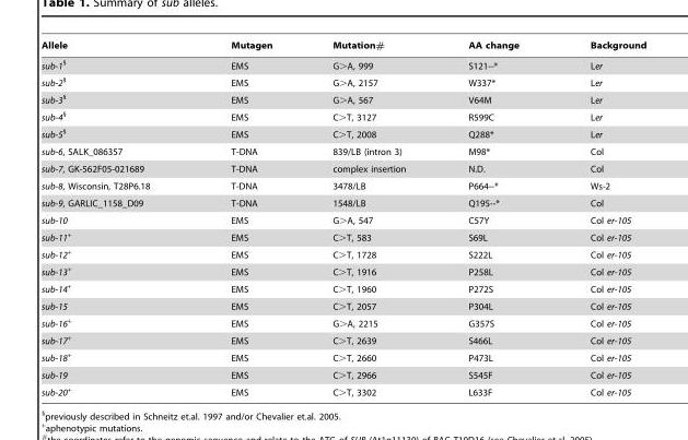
<table><thead><tr><td>Allele</td><td>Mutagen</td><td>Mutation#</td><td>AA change</td><td>Background</td></tr></thead><tbody><tr><td>sub-1§</td><td>EMS</td><td>G&gt;A, 999</td><td>S121--*</td><td>Ler</td></tr><tr><td>sub-2§</td><td>EMS</td><td>G&gt;A, 2157</td><td>W337*</td><td>Ler</td></tr><tr><td>sub-3§</td><td>EMS</td><td>G&gt;A, 567</td><td>V64M</td><td>Ler</td></tr><tr><td>sub-4§</td><td>EMS</td><td>C&gt;T, 3127</td><td>R599C</td><td>Ler</td></tr><tr><td>sub-5§</td><td>EMS</td><td>C&gt;T, 2008</td><td>Q288*</td><td>Ler</td></tr><tr><td>sub-6, SALK_086357</td><td>T-DNA</td><td>839/LB (intron 3)</td><td>M98*</td><td>Col</td></tr><tr><td>sub-7, GK-562F05-021689</td><td>T-DNA</td><td>complex insertion</td><td>N.D.</td><td>Col</td></tr><tr><td>sub-8, Wisconsin, T28P6.18</td><td>T-DNA</td><td>3478/LB</td><td>P664--*</td><td>Ws-2</td></tr><tr><td>sub-9, GARLIC_1158_D09</td><td>T-DNA</td><td>1548/LB</td><td>Q195--*</td><td>Col</td></tr><tr><td>sub-10</td><td>EMS</td><td>G&gt;A, 547</td><td>C57Y</td><td>Col er-105</td></tr><tr><td>sub-11+</td><td>EMS</td><td>C&gt;T, 583</td><td>S69L</td><td>Col er-105</td></tr><tr><td>sub-12+</td><td>EMS</td><td>C&gt;T, 1728</td><td>S222L</td><td>Col er-105</td></tr><tr><td>sub-13+</td><td>EMS</td><td>C&gt;T, 1916</td><td>P258L</td><td>Col er-105</td></tr><tr><td>sub-14+</td><td>EMS</td><td>C&gt;T, 1960</td><td>P272S</td><td>Col er-105</td></tr><tr><td>sub-15</td><td>EMS</td><td>C&gt;T, 2057</td><td>P304L</td><td>Col er-105</td></tr><tr><td>sub-16+</td><td>EMS</td><td>G&gt;A, 2215</td><td>G357S</td><td>Col er-105</td></tr><tr><td>sub-17+</td><td>EMS</td><td>C&gt;T, 2639</td><td>S466L</td><td>Col er-105</td></tr><tr><td>sub-18+</td><td>EMS</td><td>C&gt;T, 2660</td><td>P473L</td><td>Col er-105</td></tr><tr><td>sub-19</td><td>EMS</td><td>C&gt;T, 2966</td><td>S545F</td><td>Col er-105</td></tr><tr><td>sub-20+</td><td>EMS</td><td>C&gt;T, 3302</td><td>L633F</td><td>Col er-105</td></tr></tbody></table>